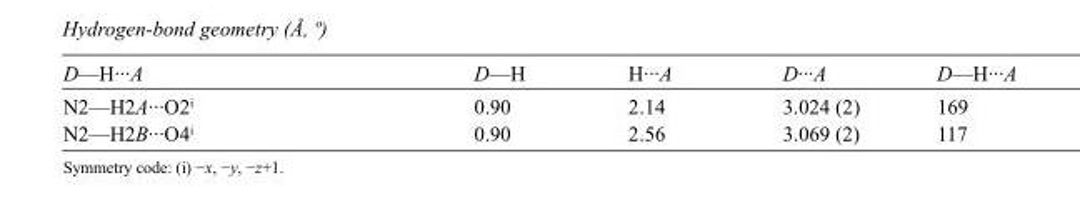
<table><tbody><tr><td>D—H···A</td><td>D—H</td><td>H···A</td><td>D···A</td><td>D—H···A</td></tr><tr><td>N2—H2A···O2<sup>i</sup></td><td>0.90</td><td>2.14</td><td>3.024 (2)</td><td>169</td></tr><tr><td>N2—H2B···O4<sup>i</sup></td><td>0.90</td><td>2.56</td><td>3.069 (2)</td><td>117</td></tr></tbody></table>